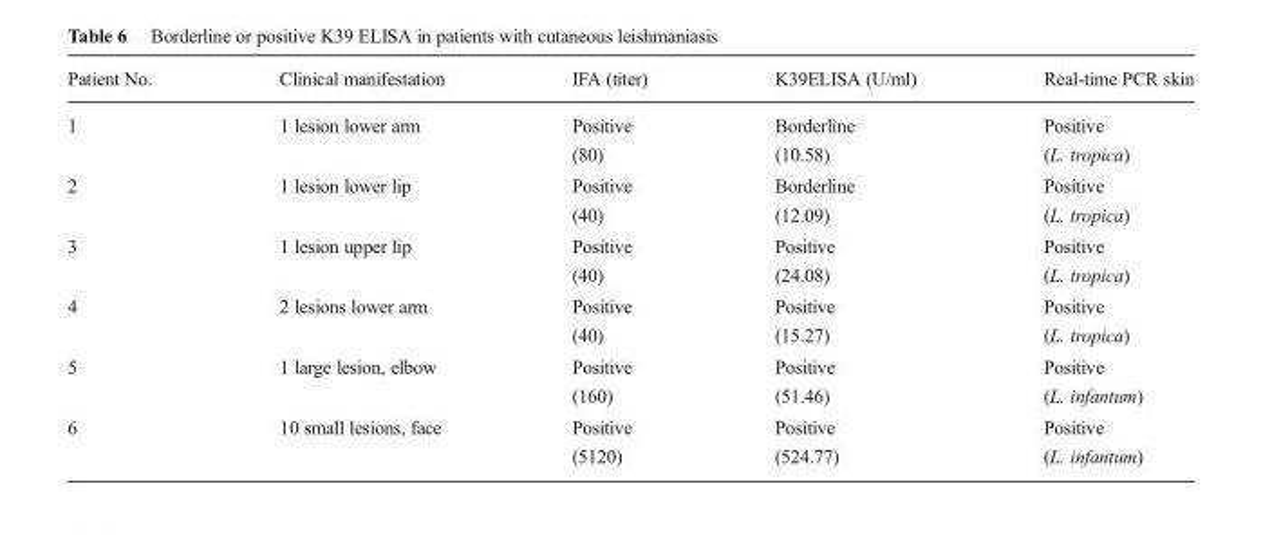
<table><thead><tr><td>Patient No.</td><td>Clinical manifestation</td><td>IFA (titer)</td><td>K39ELISA (U/ml)</td><td>Real-time PCR skin</td></tr></thead><tbody><tr><td rowspan="2">1</td><td rowspan="2">1 lesion lower arm</td><td>Positive</td><td>Borderline</td><td>Positive</td></tr><tr><td>(80)</td><td>(10.58)</td><td>(L. tropica)</td></tr><tr><td rowspan="2">2</td><td rowspan="2">1 lesion lower lip</td><td>Positive</td><td>Borderline</td><td>Positive</td></tr><tr><td>(40)</td><td>(12.09)</td><td>(L. tropica)</td></tr><tr><td rowspan="2">3</td><td rowspan="2">1 lesion upper lip</td><td>Positive</td><td>Positive</td><td>Positive</td></tr><tr><td>(40)</td><td>(24.08)</td><td>(L. tropica)</td></tr><tr><td rowspan="2">4</td><td rowspan="2">2 lesions lower arm</td><td>Positive</td><td>Positive</td><td>Positive</td></tr><tr><td>(40)</td><td>(15.27)</td><td>(L. tropica)</td></tr><tr><td rowspan="2">5</td><td rowspan="2">1 large lesion, elbow</td><td>Positive</td><td>Positive</td><td>Positive</td></tr><tr><td>(160)</td><td>(51.46)</td><td>(L. infantum)</td></tr><tr><td rowspan="2">6</td><td rowspan="2">10 small lesions, face</td><td>Positive</td><td>Positive</td><td>Positive</td></tr><tr><td>(5120)</td><td>(524.77)</td><td>(L. infantum)</td></tr></tbody></table>